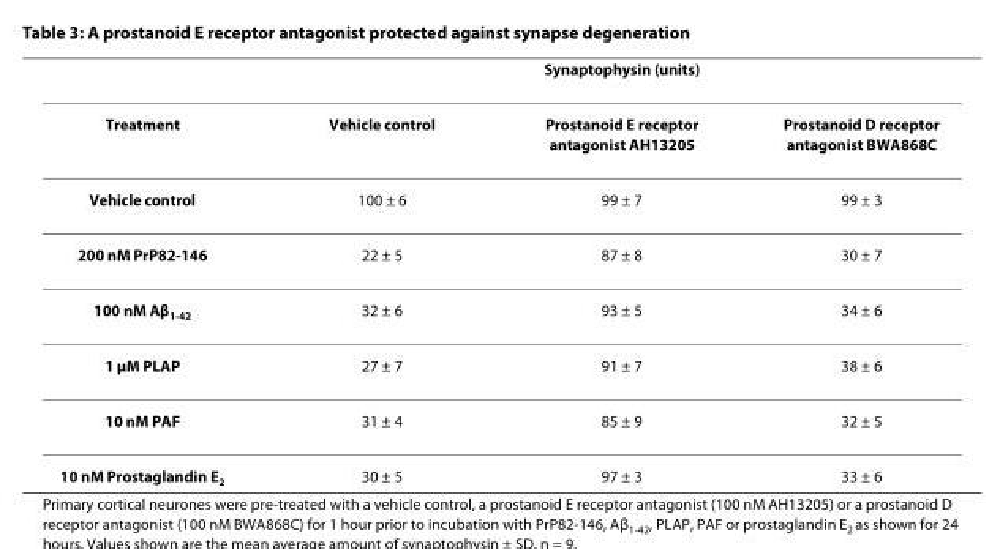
<table><thead><tr><td rowspan="2">Treatment</td><td colspan="3">Synaptophysin (units)</td></tr><tr><td>Vehicle control</td><td>Prostanoid E receptor antagonist AH13205</td><td>Prostanoid D receptor antagonist BWA868C</td></tr></thead><tbody><tr><td>Vehicle control</td><td>100 ± 6</td><td>99 ± 7</td><td>99 ± 3</td></tr><tr><td>200 nM PrP82-146</td><td>22 ± 5</td><td>87 ± 8</td><td>30 ± 7</td></tr><tr><td>100 nM Aβ<sub>1-42</sub></td><td>32 ± 6</td><td>93 ± 5</td><td>34 ± 6</td></tr><tr><td>1 μM PLAP</td><td>27 ± 7</td><td>91 ± 7</td><td>38 ± 6</td></tr><tr><td>10 nM PAF</td><td>31 ± 4</td><td>85 ± 9</td><td>32 ± 5</td></tr><tr><td>10 nM Prostaglandin E<sub>2</sub></td><td>30 ± 5</td><td>97 ± 3</td><td>33 ± 6</td></tr></tbody></table>